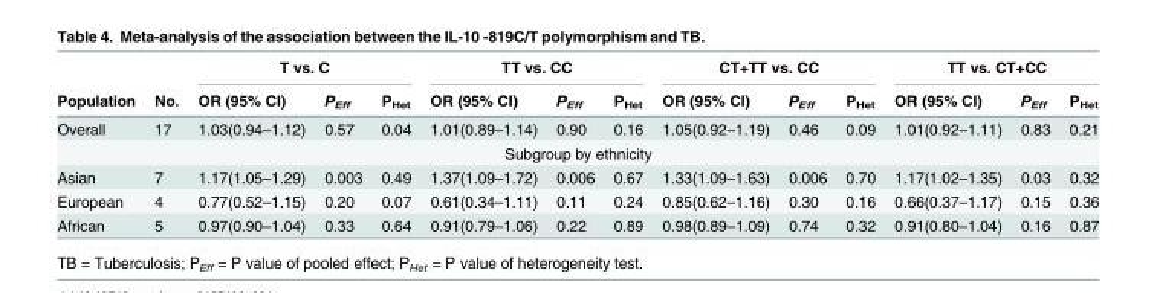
<table><thead><tr><td rowspan="2">Population</td><td rowspan="2">No.</td><td colspan="3">T vs. C</td><td colspan="3">TT vs. CC</td><td colspan="3">CT+TT vs. CC</td><td colspan="3">TT vs. CT+CC</td></tr><tr><td>OR (95% CI)</td><td>P<sub>Eff</sub></td><td>P<sub>Het</sub></td><td>OR (95% CI)</td><td>P<sub>Eff</sub></td><td>P<sub>Het</sub></td><td>OR (95% CI)</td><td>P<sub>Eff</sub></td><td>P<sub>Het</sub></td><td>OR (95% CI)</td><td>P<sub>Eff</sub></td><td>P<sub>Het</sub></td></tr></thead><tbody><tr><td>Overall</td><td>17</td><td>1.03(0.94–1.12)</td><td>0.57</td><td>0.04</td><td>1.01(0.89–1.14)</td><td>0.90</td><td>0.16</td><td>1.05(0.92–1.19)</td><td>0.46</td><td>0.09</td><td>1.01(0.92–1.11)</td><td>0.83</td><td>0.21</td></tr><tr><td colspan="14">Subgroup by ethnicity</td></tr><tr><td>Asian</td><td>7</td><td>1.17(1.05–1.29)</td><td>0.003</td><td>0.49</td><td>1.37(1.09–1.72)</td><td>0.006</td><td>0.67</td><td>1.33(1.09–1.63)</td><td>0.006</td><td>0.70</td><td>1.17(1.02–1.35)</td><td>0.03</td><td>0.32</td></tr><tr><td>European</td><td>4</td><td>0.77(0.52–1.15)</td><td>0.20</td><td>0.07</td><td>0.61(0.34–1.11)</td><td>0.11</td><td>0.24</td><td>0.85(0.62–1.16)</td><td>0.30</td><td>0.16</td><td>0.66(0.37–1.17)</td><td>0.15</td><td>0.36</td></tr><tr><td>African</td><td>5</td><td>0.97(0.90–1.04)</td><td>0.33</td><td>0.64</td><td>0.91(0.79–1.06)</td><td>0.22</td><td>0.89</td><td>0.98(0.89–1.09)</td><td>0.74</td><td>0.32</td><td>0.91(0.80–1.04)</td><td>0.16</td><td>0.87</td></tr></tbody></table>